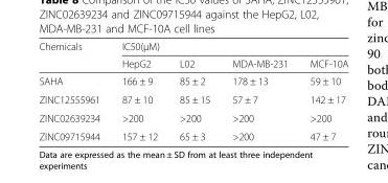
<table><thead><tr><td rowspan="2">Chemicals</td><td colspan="4">IC50(μM)</td></tr><tr><td>HepG2</td><td>L02</td><td>MDA-MB-231</td><td>MCF-10A</td></tr></thead><tbody><tr><td>SAHA</td><td>166 ± 9</td><td>85 ± 2</td><td>178 ± 13</td><td>59 ± 10</td></tr><tr><td>ZINC12555961</td><td>87 ± 10</td><td>85 ± 15</td><td>57 ± 7</td><td>142 ± 17</td></tr><tr><td>ZINC02639234</td><td>&gt;200</td><td>&gt;200</td><td>&gt;200</td><td>&gt;200</td></tr><tr><td>ZINC09715944</td><td>157 ± 12</td><td>65 ± 3</td><td>&gt;200</td><td>47 ± 7</td></tr></tbody></table>